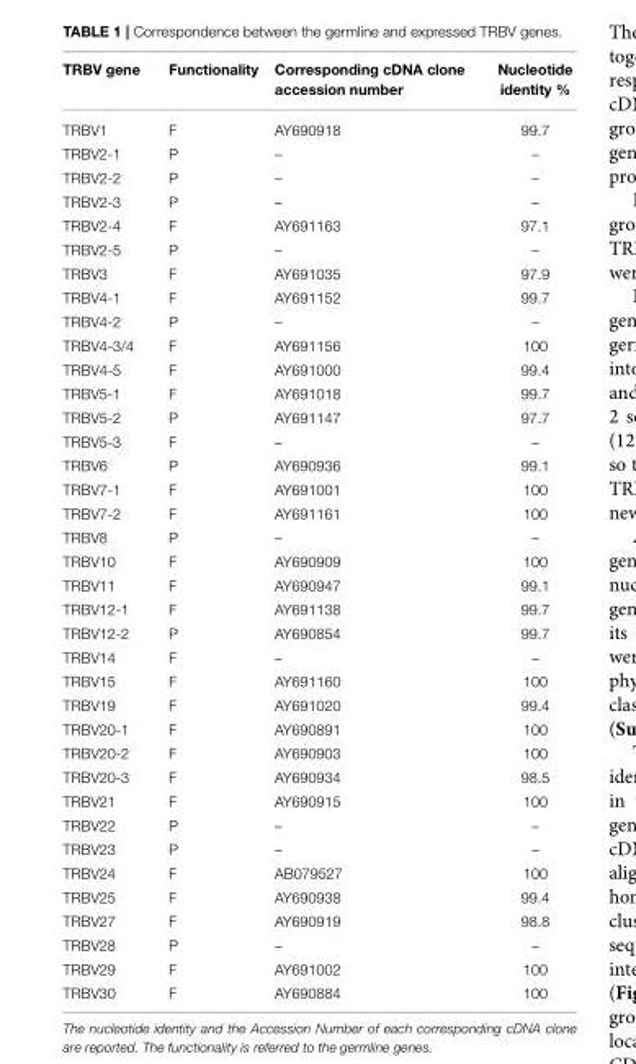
<table><thead><tr><td>TRBV gene</td><td>Functionality</td><td>Corresponding cDNA clone accession number</td><td>Nucleotide identity %</td></tr></thead><tbody><tr><td>TRBV1</td><td>F</td><td>AY690918</td><td>99.7</td></tr><tr><td>TRBV2-1</td><td>P</td><td>–</td><td>–</td></tr><tr><td>TRBV2-2</td><td>P</td><td>–</td><td>–</td></tr><tr><td>TRBV2-3</td><td>P</td><td>–</td><td>–</td></tr><tr><td>TRBV2-4</td><td>F</td><td>AY691163</td><td>97.1</td></tr><tr><td>TRBV2-5</td><td>P</td><td>–</td><td>–</td></tr><tr><td>TRBV3</td><td>F</td><td>AY691035</td><td>97.9</td></tr><tr><td>TRBV4-1</td><td>F</td><td>AY691152</td><td>99.7</td></tr><tr><td>TRBV4-2</td><td>P</td><td>–</td><td>–</td></tr><tr><td>TRBV4-3/4</td><td>F</td><td>AY691156</td><td>100</td></tr><tr><td>TRBV4-5</td><td>F</td><td>AY691000</td><td>99.4</td></tr><tr><td>TRBV5-1</td><td>F</td><td>AY691018</td><td>99.7</td></tr><tr><td>TRBV5-2</td><td>P</td><td>AY691147</td><td>97.7</td></tr><tr><td>TRBV5-3</td><td>F</td><td>–</td><td>–</td></tr><tr><td>TRBV6</td><td>P</td><td>AY690936</td><td>99.1</td></tr><tr><td>TRBV7-1</td><td>F</td><td>AY691001</td><td>100</td></tr><tr><td>TRBV7-2</td><td>F</td><td>AY691161</td><td>100</td></tr><tr><td>TRBV8</td><td>P</td><td>–</td><td>–</td></tr><tr><td>TRBV10</td><td>F</td><td>AY690909</td><td>100</td></tr><tr><td>TRBV11</td><td>F</td><td>AY690947</td><td>99.1</td></tr><tr><td>TRBV12-1</td><td>F</td><td>AY691138</td><td>99.7</td></tr><tr><td>TRBV12-2</td><td>P</td><td>AY690854</td><td>99.7</td></tr><tr><td>TRBV14</td><td>F</td><td>–</td><td>–</td></tr><tr><td>TRBV15</td><td>F</td><td>AY691160</td><td>100</td></tr><tr><td>TRBV19</td><td>F</td><td>AY691020</td><td>99.4</td></tr><tr><td>TRBV20-1</td><td>F</td><td>AY690891</td><td>100</td></tr><tr><td>TRBV20-2</td><td>F</td><td>AY690903</td><td>100</td></tr><tr><td>TRBV20-3</td><td>F</td><td>AY690934</td><td>98.5</td></tr><tr><td>TRBV21</td><td>F</td><td>AY690915</td><td>100</td></tr><tr><td>TRBV22</td><td>P</td><td>–</td><td>–</td></tr><tr><td>TRBV23</td><td>P</td><td>–</td><td>–</td></tr><tr><td>TRBV24</td><td>F</td><td>AB079527</td><td>100</td></tr><tr><td>TRBV25</td><td>F</td><td>AY690938</td><td>99.4</td></tr><tr><td>TRBV27</td><td>F</td><td>AY690919</td><td>98.8</td></tr><tr><td>TRBV28</td><td>P</td><td>–</td><td>–</td></tr><tr><td>TRBV29</td><td>F</td><td>AY691002</td><td>100</td></tr><tr><td>TRBV30</td><td>F</td><td>AY690884</td><td>100</td></tr></tbody></table>